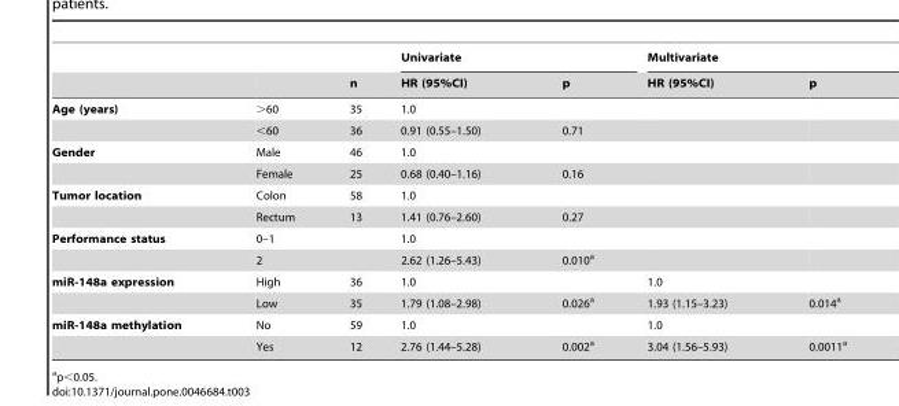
<table><thead><tr><td rowspan="2"></td><td rowspan="2"></td><td rowspan="2">n</td><td colspan="2">Univariate</td><td colspan="2">Multivariate</td></tr><tr><td>HR (95%CI)</td><td>p</td><td>HR (95%CI)</td><td>p</td></tr></thead><tbody><tr><td rowspan="2">Age (years)</td><td>&gt;60</td><td>35</td><td>1.0</td><td></td><td></td><td></td></tr><tr><td>&lt;60</td><td>36</td><td>0.91 (0.55–1.50)</td><td>0.71</td><td></td><td></td></tr><tr><td rowspan="2">Gender</td><td>Male</td><td>46</td><td>1.0</td><td></td><td></td><td></td></tr><tr><td>Female</td><td>25</td><td>0.68 (0.40–1.16)</td><td>0.16</td><td></td><td></td></tr><tr><td rowspan="2">Tumor location</td><td>Colon</td><td>58</td><td>1.0</td><td></td><td></td><td></td></tr><tr><td>Rectum</td><td>13</td><td>1.41 (0.76–2.60)</td><td>0.27</td><td></td><td></td></tr><tr><td rowspan="2">Performance status</td><td>0–1</td><td></td><td>1.0</td><td></td><td></td><td></td></tr><tr><td>2</td><td></td><td>2.62 (1.26–5.43)</td><td>0.010<sup>a</sup></td><td></td><td></td></tr><tr><td rowspan="2">miR-148a expression</td><td>High</td><td>36</td><td>1.0</td><td></td><td>1.0</td><td></td></tr><tr><td>Low</td><td>35</td><td>1.79 (1.08–2.98)</td><td>0.026<sup>a</sup></td><td>1.93 (1.15–3.23)</td><td>0.014<sup>a</sup></td></tr><tr><td rowspan="2">miR-148a methylation</td><td>No</td><td>59</td><td>1.0</td><td></td><td>1.0</td><td></td></tr><tr><td>Yes</td><td>12</td><td>2.76 (1.44–5.28)</td><td>0.002<sup>a</sup></td><td>3.04 (1.56–5.93)</td><td>0.0011<sup>a</sup></td></tr></tbody></table>